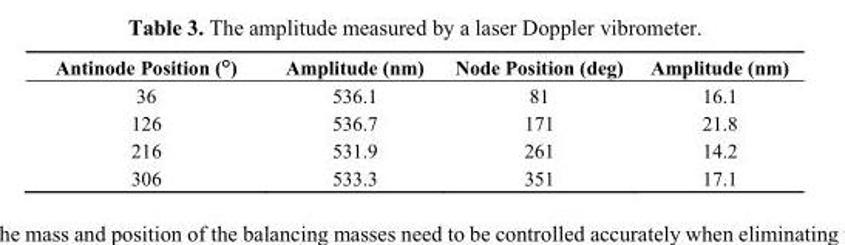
<table><thead><tr><td>Antinode Position (°)</td><td>Amplitude (nm)</td><td>Node Position (deg)</td><td>Amplitude (nm)</td></tr></thead><tbody><tr><td>36</td><td>536.1</td><td>81</td><td>16.1</td></tr><tr><td>126</td><td>536.7</td><td>171</td><td>21.8</td></tr><tr><td>216</td><td>531.9</td><td>261</td><td>14.2</td></tr><tr><td>306</td><td>533.3</td><td>351</td><td>17.1</td></tr></tbody></table>